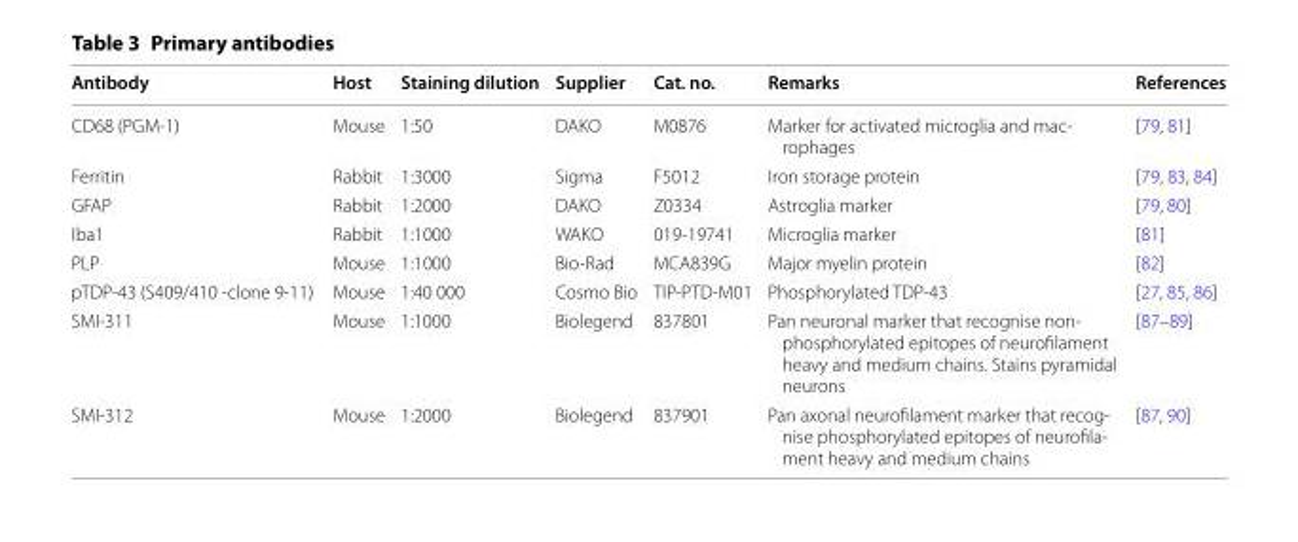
<table><thead><tr><td>Antibody</td><td>Host</td><td>Staining dilution</td><td>Supplier</td><td>Cat. no.</td><td>Remarks</td><td>References</td></tr></thead><tbody><tr><td>CD68 (PGM‑1)</td><td>Mouse</td><td>1:50</td><td>DAKO</td><td>M0876</td><td>Marker for activated microglia and mac‑ rophages</td><td>[79, 81]</td></tr><tr><td>Ferritin</td><td>Rabbit</td><td>1:3000</td><td>Sigma</td><td>F5012</td><td>Iron storage protein</td><td>[79, 83, 84]</td></tr><tr><td>GFAP</td><td>Rabbit</td><td>1:2000</td><td>DAKO</td><td>Z0334</td><td>Astroglia marker</td><td>[79, 80]</td></tr><tr><td>Iba1</td><td>Rabbit</td><td>1:1000</td><td>WAKO</td><td>019‑19741</td><td>Microglia marker</td><td>[81]</td></tr><tr><td>PLP</td><td>Mouse</td><td>1:1000</td><td>Bio‑Rad</td><td>MCA839G</td><td>Major myelin protein</td><td>[82]</td></tr><tr><td>pTDP‑43 (S409/410 ‑clone 9‑11)</td><td>Mouse</td><td>1:40 000</td><td>Cosmo Bio</td><td>TIP‑PTD‑M01</td><td>Phosphorylated TDP‑43</td><td>[27, 85, 86]</td></tr><tr><td>SMI‑311</td><td>Mouse</td><td>1:1000</td><td>Biolegend</td><td>837801</td><td>Pan neuronal marker that recognise non‑ phosphorylated epitopes of neurofilament heavy and medium chains. Stains pyramidal neurons</td><td>[87–89]</td></tr><tr><td>SMI‑312</td><td>Mouse</td><td>1:2000</td><td>Biolegend</td><td>837901</td><td>Pan axonal neurofilament marker that recog‑ nise phosphorylated epitopes of neurofila‑ ment heavy and medium chains</td><td>[87, 90]</td></tr></tbody></table>